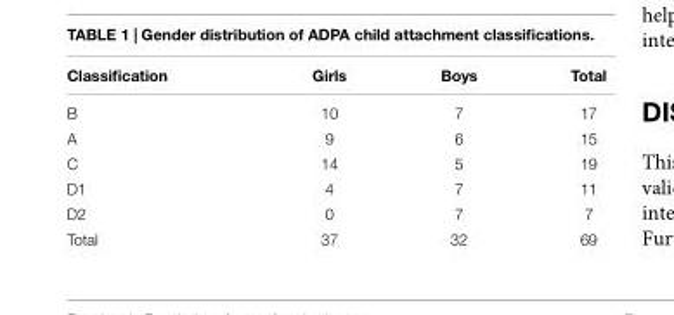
<table><thead><tr><td>Classification</td><td>Girls</td><td>Boys</td><td>Total</td></tr></thead><tbody><tr><td>B</td><td>10</td><td>7</td><td>17</td></tr><tr><td>A</td><td>9</td><td>6</td><td>15</td></tr><tr><td>C</td><td>14</td><td>5</td><td>19</td></tr><tr><td>D1</td><td>4</td><td>7</td><td>11</td></tr><tr><td>D2</td><td>0</td><td>7</td><td>7</td></tr><tr><td>Total</td><td>37</td><td>32</td><td>69</td></tr></tbody></table>